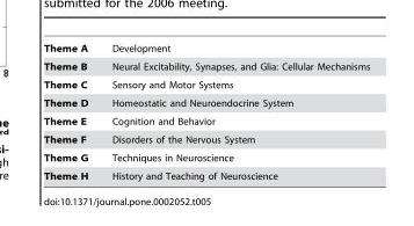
<table><tbody><tr><td>Theme A</td><td>Development</td></tr><tr><td>Theme B</td><td>Neural Excitability, Synapses, and Glia: Cellular Mechanisms</td></tr><tr><td>Theme C</td><td>Sensory and Motor Systems</td></tr><tr><td>Theme D</td><td>Homeostatic and Neuroendocrine System</td></tr><tr><td>Theme E</td><td>Cognition and Behavior</td></tr><tr><td>Theme F</td><td>Disorders of the Nervous System</td></tr><tr><td>Theme G</td><td>Techniques in Neuroscience</td></tr><tr><td>Theme H</td><td>History and Teaching of Neuroscience</td></tr></tbody></table>